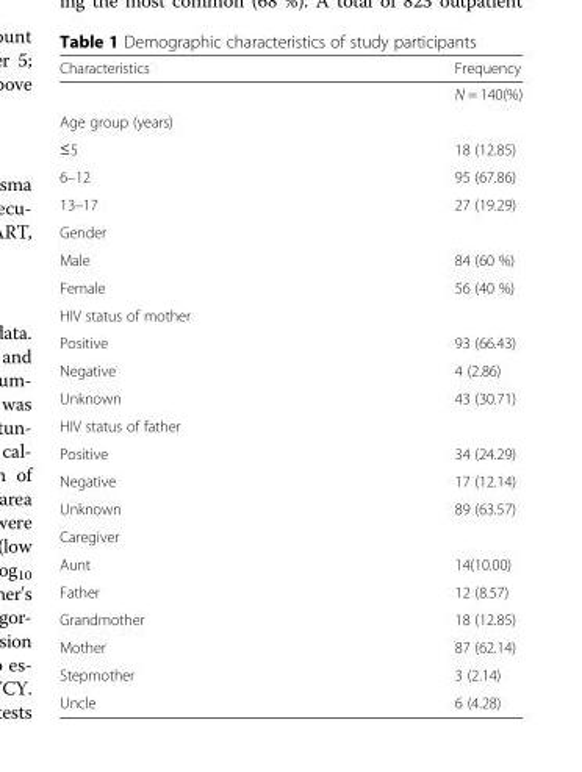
<table><thead><tr><td>Characteristics</td><td>Frequency</td></tr></thead><tbody><tr><td></td><td>N = 140(%)</td></tr><tr><td colspan="2">Age group (years)</td></tr><tr><td>≤5</td><td>18 (12.85)</td></tr><tr><td>6–12</td><td>95 (67.86)</td></tr><tr><td>13–17</td><td>27 (19.29)</td></tr><tr><td colspan="2">Gender</td></tr><tr><td>Male</td><td>84 (60 %)</td></tr><tr><td>Female</td><td>56 (40 %)</td></tr><tr><td colspan="2">HIV status of mother</td></tr><tr><td>Positive</td><td>93 (66.43)</td></tr><tr><td>Negative</td><td>4 (2.86)</td></tr><tr><td>Unknown</td><td>43 (30.71)</td></tr><tr><td colspan="2">HIV status of father</td></tr><tr><td>Positive</td><td>34 (24.29)</td></tr><tr><td>Negative</td><td>17 (12.14)</td></tr><tr><td>Unknown</td><td>89 (63.57)</td></tr><tr><td colspan="2">Caregiver</td></tr><tr><td>Aunt</td><td>14(10.00)</td></tr><tr><td>Father</td><td>12 (8.57)</td></tr><tr><td>Grandmother</td><td>18 (12.85)</td></tr><tr><td>Mother</td><td>87 (62.14)</td></tr><tr><td>Stepmother</td><td>3 (2.14)</td></tr><tr><td>Uncle</td><td>6 (4.28)</td></tr></tbody></table>